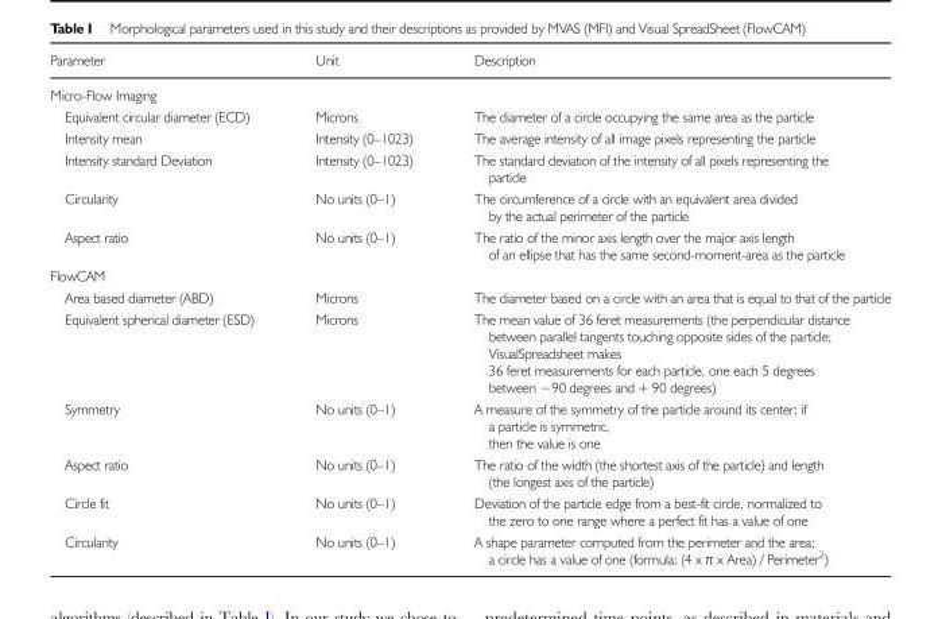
<table><thead><tr><td>Parameter</td><td>Unit</td><td>Description</td></tr></thead><tbody><tr><td colspan="3">Micro-Flow Imaging</td></tr><tr><td>Equivalent circular diameter (ECD)</td><td>Microns</td><td>The diameter of a circle occupying the same area as the particle</td></tr><tr><td>Intensity mean</td><td>Intensity (0–1023)</td><td>The average intensity of all image pixels representing the particle</td></tr><tr><td>Intensity standard Deviation</td><td>Intensity (0–1023)</td><td>The standard deviation of the intensity of all pixels representing the particle</td></tr><tr><td>Circularity</td><td>No units (0–1)</td><td>The circumference of a circle with an equivalent area divided by the actual perimeter of the particle</td></tr><tr><td>Aspect ratio</td><td>No units (0–1)</td><td>The ratio of the minor axis length over the major axis length of an ellipse that has the same second-moment-area as the particle</td></tr><tr><td colspan="3">FlowCAM</td></tr><tr><td>Area based diameter (ABD)</td><td>Microns</td><td>The diameter based on a circle with an area that is equal to that of the particle</td></tr><tr><td>Equivalent spherical diameter (ESD)</td><td>Microns</td><td>The mean value of 36 feret measurements (the perpendicular distance between parallel tangents touching opposite sides of the particle; VisualSpreadsheet makes 36 feret measurements for each particle, one each 5 degrees between −90 degrees and + 90 degrees)</td></tr><tr><td>Symmetry</td><td>No units (0–1)</td><td>A measure of the symmetry of the particle around its center; if a particle is symmetric, then the value is one</td></tr><tr><td>Aspect ratio</td><td>No units (0–1)</td><td>The ratio of the width (the shortest axis of the particle) and length (the longest axis of the particle)</td></tr><tr><td>Circle fit</td><td>No units (0–1)</td><td>Deviation of the particle edge from a best-fit circle, normalized to the zero to one range where a perfect fit has a value of one</td></tr><tr><td>Circularity</td><td>No units (0–1)</td><td>A shape parameter computed from the perimeter and the area; a circle has a value of one (formula: (4 x π x Area) / Perimeter<sup>2</sup>)</td></tr></tbody></table>